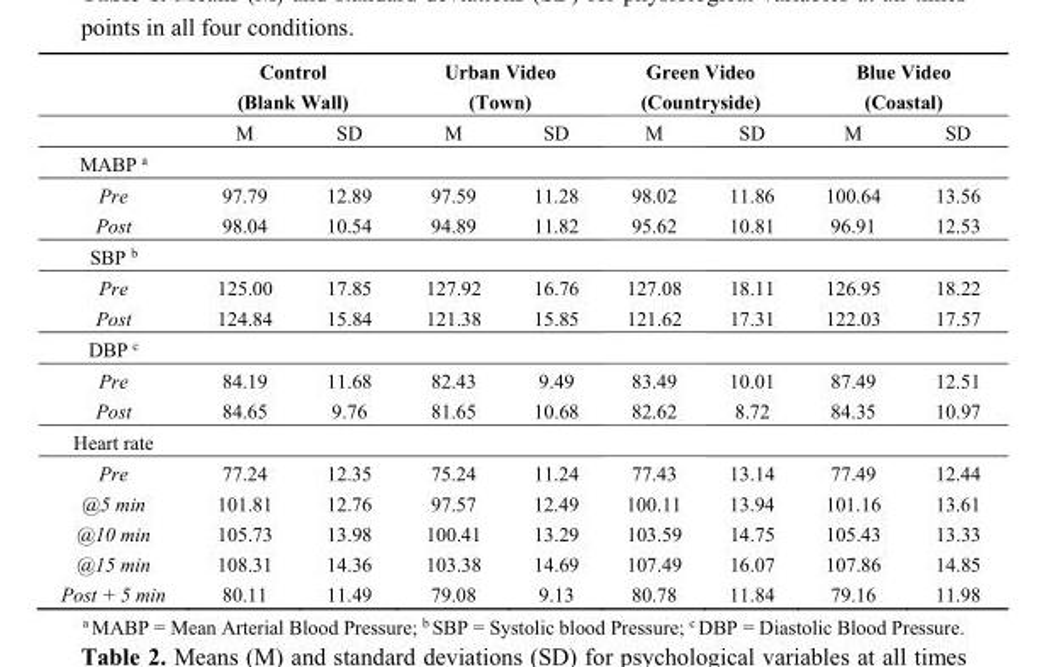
<table><thead><tr><td rowspan="2"></td><td colspan="2">Control (Blank Wall)</td><td colspan="2">Urban Video (Town)</td><td colspan="2">Green Video (Countryside)</td><td colspan="2">Blue Video (Coastal)</td></tr><tr><td>M</td><td>SD</td><td>M</td><td>SD</td><td>M</td><td>SD</td><td>M</td><td>SD</td></tr></thead><tbody><tr><td colspan="9">MABP <sup>a</sup></td></tr><tr><td>Pre</td><td>97.79</td><td>12.89</td><td>97.59</td><td>11.28</td><td>98.02</td><td>11.86</td><td>100.64</td><td>13.56</td></tr><tr><td>Post</td><td>98.04</td><td>10.54</td><td>94.89</td><td>11.82</td><td>95.62</td><td>10.81</td><td>96.91</td><td>12.53</td></tr><tr><td colspan="9">SBP <sup>b</sup></td></tr><tr><td>Pre</td><td>125.00</td><td>17.85</td><td>127.92</td><td>16.76</td><td>127.08</td><td>18.11</td><td>126.95</td><td>18.22</td></tr><tr><td>Post</td><td>124.84</td><td>15.84</td><td>121.38</td><td>15.85</td><td>121.62</td><td>17.31</td><td>122.03</td><td>17.57</td></tr><tr><td colspan="9">DBP <sup>c</sup></td></tr><tr><td>Pre</td><td>84.19</td><td>11.68</td><td>82.43</td><td>9.49</td><td>83.49</td><td>10.01</td><td>87.49</td><td>12.51</td></tr><tr><td>Post</td><td>84.65</td><td>9.76</td><td>81.65</td><td>10.68</td><td>82.62</td><td>8.72</td><td>84.35</td><td>10.97</td></tr><tr><td colspan="9">Heart rate</td></tr><tr><td>Pre</td><td>77.24</td><td>12.35</td><td>75.24</td><td>11.24</td><td>77.43</td><td>13.14</td><td>77.49</td><td>12.44</td></tr><tr><td>@5 min</td><td>101.81</td><td>12.76</td><td>97.57</td><td>12.49</td><td>100.11</td><td>13.94</td><td>101.16</td><td>13.61</td></tr><tr><td>@10 min</td><td>105.73</td><td>13.98</td><td>100.41</td><td>13.29</td><td>103.59</td><td>14.75</td><td>105.43</td><td>13.33</td></tr><tr><td>@15 min</td><td>108.31</td><td>14.36</td><td>103.38</td><td>14.69</td><td>107.49</td><td>16.07</td><td>107.86</td><td>14.85</td></tr><tr><td>Post + 5 min</td><td>80.11</td><td>11.49</td><td>79.08</td><td>9.13</td><td>80.78</td><td>11.84</td><td>79.16</td><td>11.98</td></tr></tbody></table>